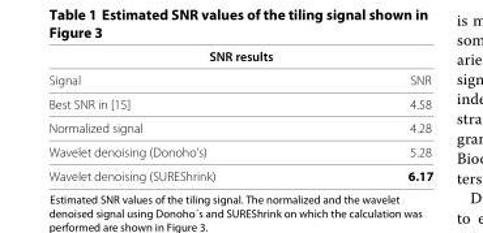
<table><thead><tr><td colspan="2">SNR results</td></tr><tr><td>Signal</td><td>SNR</td></tr></thead><tbody><tr><td>Best SNR in [15]</td><td>4.58</td></tr><tr><td>Normalized signal</td><td>4.28</td></tr><tr><td>Wavelet denoising (Donoho’s)</td><td>5.28</td></tr><tr><td>Wavelet denoising (SUREShrink)</td><td>6.17</td></tr></tbody></table>